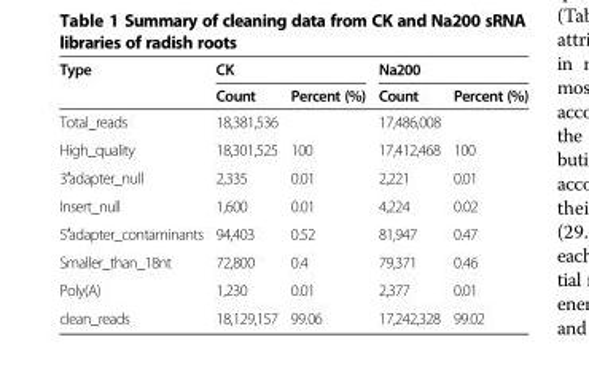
<table><thead><tr><td rowspan="2">Type</td><td colspan="2">CK</td><td colspan="2">Na200</td></tr><tr><td>Count</td><td>Percent (%)</td><td>Count</td><td>Percent (%)</td></tr></thead><tbody><tr><td>Total_reads</td><td>18,381,536</td><td></td><td>17,486,008</td><td></td></tr><tr><td>High_quality</td><td>18,301,525</td><td>100</td><td>17,412,468</td><td>100</td></tr><tr><td>3′adapter_null</td><td>2,335</td><td>0.01</td><td>2,221</td><td>0.01</td></tr><tr><td>Insert_null</td><td>1,600</td><td>0.01</td><td>4,224</td><td>0.02</td></tr><tr><td>5′adapter_contaminants</td><td>94,403</td><td>0.52</td><td>81,947</td><td>0.47</td></tr><tr><td>Smaller_than_18nt</td><td>72,800</td><td>0.4</td><td>79,371</td><td>0.46</td></tr><tr><td>Poly(A)</td><td>1,230</td><td>0.01</td><td>2,377</td><td>0.01</td></tr><tr><td>clean_reads</td><td>18,129,157</td><td>99.06</td><td>17,242,328</td><td>99.02</td></tr></tbody></table>